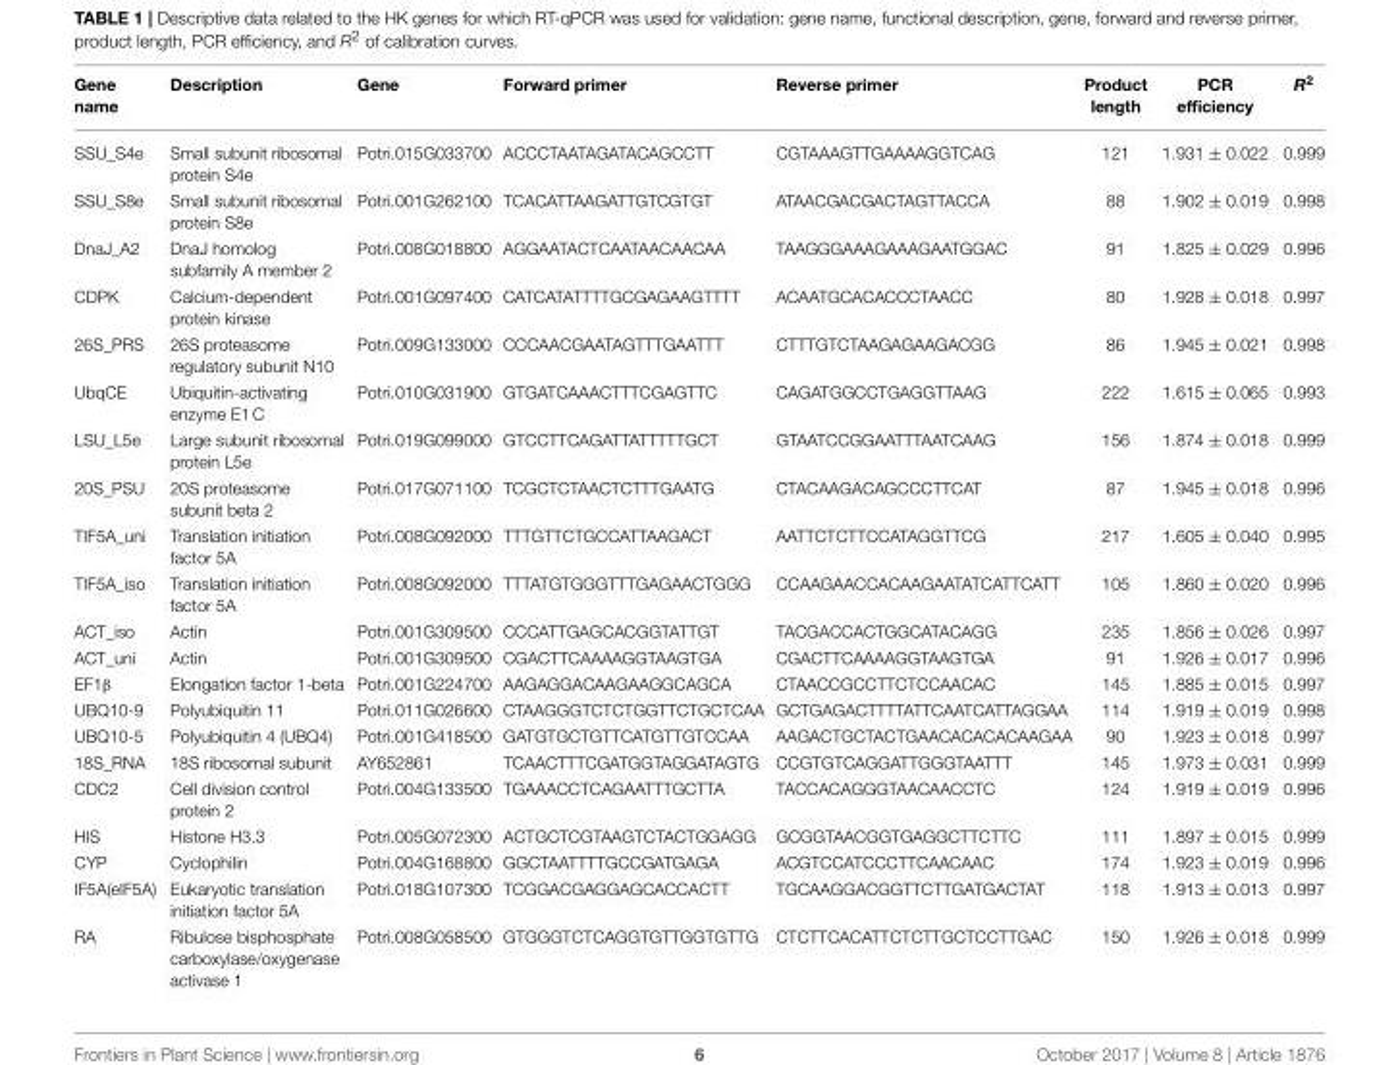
<table><thead><tr><td>Gene name</td><td>Description</td><td>Gene</td><td>Forward primer</td><td>Reverse primer</td><td>Product length</td><td>PCR efficiency</td><td>R<sup>2</sup></td></tr></thead><tbody><tr><td>SSU_S4e</td><td>Small subunit ribosomal protein S4e</td><td>Potri.015G033700</td><td>ACCCTAATAGATACAGCCTT</td><td>CGTAAAGTTGAAAAGGTCAG</td><td>121</td><td>1.931 ± 0.022</td><td>0.999</td></tr><tr><td>SSU_S8e</td><td>Small subunit ribosomal protein S8e</td><td>Potri.001G262100</td><td>TCACATTAAGATTGTCGTGT</td><td>ATAACGACGACTAGTTACCA</td><td>88</td><td>1.902 ± 0.019</td><td>0.998</td></tr><tr><td>DnaJ_A2</td><td>DnaJ homolog subfamily A member 2</td><td>Potri.008G018800</td><td>AGGAATACTCAATAACAACAA</td><td>TAAGGGAAAGAAAGAATGGAC</td><td>91</td><td>1.825 ± 0.029</td><td>0.996</td></tr><tr><td>CDPK</td><td>Calcium-dependent protein kinase</td><td>Potri.001G097400</td><td>CATCATATTTTGCGAGAAGTTTT</td><td>ACAATGCACACCCTAACC</td><td>80</td><td>1.928 ± 0.018</td><td>0.997</td></tr><tr><td>26S_PRS</td><td>26S proteasome regulatory subunit N10</td><td>Potri.009G133000</td><td>CCCAACGAATAGTTTGAATTT</td><td>CTTTGTCTAAGAGAAGACGG</td><td>86</td><td>1.945 ± 0.021</td><td>0.998</td></tr><tr><td>UbqCE</td><td>Ubiquitin-activating enzyme E1 C</td><td>Potri.010G031900</td><td>GTGATCAAACTTTCGAGTTC</td><td>CAGATGGCCTGAGGTTAAG</td><td>222</td><td>1.615 ± 0.065</td><td>0.993</td></tr><tr><td>LSU_L5e</td><td>Large subunit ribosomal protein L5e</td><td>Potri.019G099000</td><td>GTCCTTCAGATTATTTTTGCT</td><td>GTAATCCGGAATTTAATCAAG</td><td>156</td><td>1.874 ± 0.018</td><td>0.999</td></tr><tr><td>20S_PSU</td><td>20S proteasome subunit beta 2</td><td>Potri.017G071100</td><td>TCGCTCTAACTCTTTGAATG</td><td>CTACAAGACAGCCCTTCAT</td><td>87</td><td>1.945 ± 0.018</td><td>0.996</td></tr><tr><td>TIF5A_uni</td><td>Translation initiation factor 5A</td><td>Potri.008G092000</td><td>TTTGTTCTGCCATTAAGACT</td><td>AATTCTCTTCCATAGGTTCG</td><td>217</td><td>1.605 ± 0.040</td><td>0.995</td></tr><tr><td>TIF5A_iso</td><td>Translation initiation factor 5A</td><td>Potri.008G092000</td><td>TTTATGTGGGTTTGAGAACTGGG</td><td>CCAAGAACCACAAGAATATCATTCATT</td><td>105</td><td>1.860 ± 0.020</td><td>0.996</td></tr><tr><td>ACT_iso</td><td>Actin</td><td>Potri.001G309500</td><td>CCCATTGAGCACGGTATTGT</td><td>TACGACCACTGGCATACAGG</td><td>235</td><td>1.856 ± 0.026</td><td>0.997</td></tr><tr><td>ACT_uni</td><td>Actin</td><td>Potri.001G309500</td><td>CGACTTCAAAAGGTAAGTGA</td><td>CGACTTCAAAAGGTAAGTGA</td><td>91</td><td>1.926 ± 0.017</td><td>0.996</td></tr><tr><td>EF1β</td><td>Elongation factor 1-beta</td><td>Potri.001G224700</td><td>AAGAGGACAAGAAGGCAGCA</td><td>CTAACCGCCTTCTCCAACAC</td><td>145</td><td>1.885 ± 0.015</td><td>0.997</td></tr><tr><td>UBQ10-9</td><td>Polyubiquitin 11</td><td>Potri.011G026600</td><td>CTAAGGGTCTCTGGTTCTGCTCAA</td><td>GCTGAGACTTTTATTCAATCATTAGGAA</td><td>114</td><td>1.919 ± 0.019</td><td>0.998</td></tr><tr><td>UBQ10-5</td><td>Polyubiquitin 4 (UBQ4)</td><td>Potri.001G418500</td><td>GATGTGCTGTTCATGTTGTCCAA</td><td>AAGACTGCTACTGAACACACACAAGAA</td><td>90</td><td>1.923 ± 0.018</td><td>0.997</td></tr><tr><td>18S_RNA</td><td>18S ribosomal subunit</td><td>AY652861</td><td>TCAACTTTCGATGGTAGGATAGTG</td><td>CCGTGTCAGGATTGGGTAATTT</td><td>145</td><td>1.973 ± 0.031</td><td>0.999</td></tr><tr><td>CDC2</td><td>Cell division control protein 2</td><td>Potri.004G133500</td><td>TGAAACCTCAGAATTTGCTTA</td><td>TACCACAGGGTAACAACCTC</td><td>124</td><td>1.919 ± 0.019</td><td>0.996</td></tr><tr><td>HIS</td><td>Histone H3.3</td><td>Potri.005G072300</td><td>ACTGCTCGTAAGTCTACTGGAGG</td><td>GCGGTAACGGTGAGGCTTCTTC</td><td>111</td><td>1.897 ± 0.015</td><td>0.999</td></tr><tr><td>CYP</td><td>Cyclophilin</td><td>Potri.004G168800</td><td>GGCTAATTTTGCCGATGAGA</td><td>ACGTCCATCCCTTCAACAAC</td><td>174</td><td>1.923 ± 0.019</td><td>0.996</td></tr><tr><td>IF5A(eIF5A)</td><td>Eukaryotic translation initiation factor 5A</td><td>Potri.018G107300</td><td>TCGGACGAGGAGCACCACTT</td><td>TGCAAGGACGGTTCTTGATGACTAT</td><td>118</td><td>1.913 ± 0.013</td><td>0.997</td></tr><tr><td>RA</td><td>Ribulose bisphosphate carboxylase/oxygenase activase 1</td><td>Potri.008G058500</td><td>GTGGGTCTCAGGTGTTGGTGTTG</td><td>CTCTTCACATTCTCTTGCTCCTTGAC</td><td>150</td><td>1.926 ± 0.018</td><td>0.999</td></tr></tbody></table>